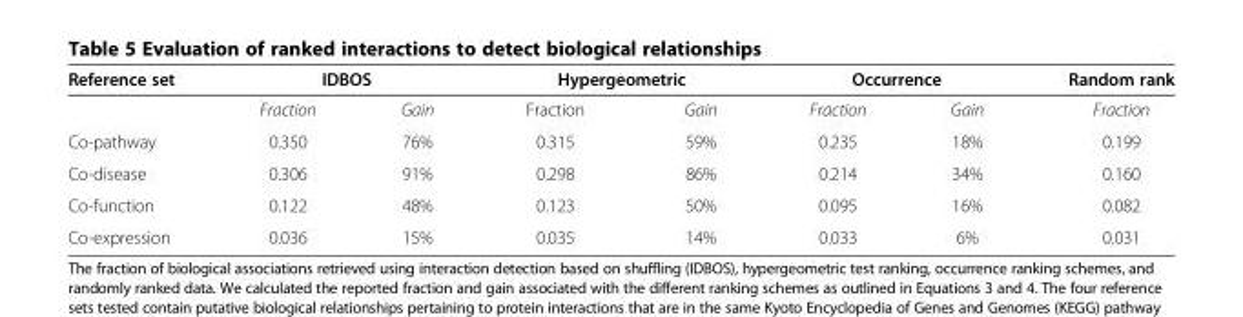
<table><thead><tr><td rowspan="2">Reference set</td><td colspan="2">IDBOS</td><td colspan="2">Hypergeometric</td><td colspan="2">Occurrence</td><td rowspan="2">Random rank Fraction</td></tr><tr><td>Fraction</td><td>Gain</td><td>Fraction</td><td>Gain</td><td>Fraction</td><td>Gain</td></tr></thead><tbody><tr><td>Co-pathway</td><td>0.350</td><td>76%</td><td>0.315</td><td>59%</td><td>0.235</td><td>18%</td><td>0.199</td></tr><tr><td>Co-disease</td><td>0.306</td><td>91%</td><td>0.298</td><td>86%</td><td>0.214</td><td>34%</td><td>0.160</td></tr><tr><td>Co-function</td><td>0.122</td><td>48%</td><td>0.123</td><td>50%</td><td>0.095</td><td>16%</td><td>0.082</td></tr><tr><td>Co-expression</td><td>0.036</td><td>15%</td><td>0.035</td><td>14%</td><td>0.033</td><td>6%</td><td>0.031</td></tr></tbody></table>